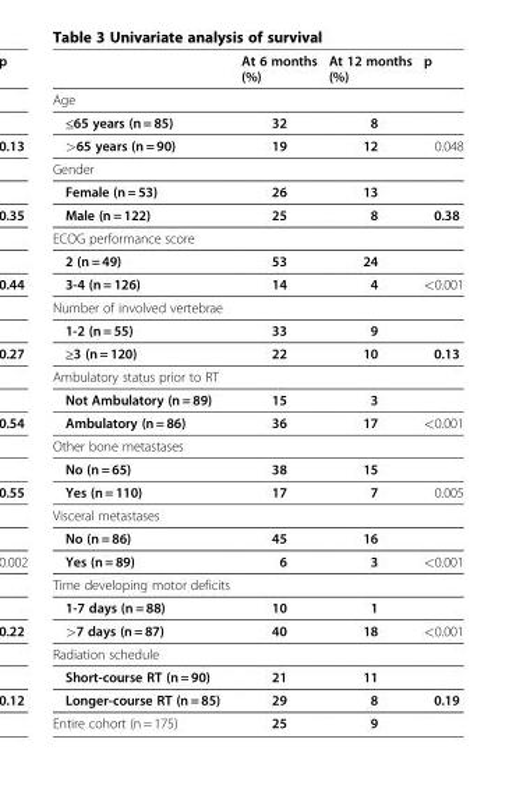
<table><thead><tr><td></td><td>At 6 months (%)</td><td>At 12 months (%)</td><td>p</td></tr></thead><tbody><tr><td colspan="4">Age</td></tr><tr><td>≤65 years (n = 85)</td><td>32</td><td>8</td><td></td></tr><tr><td>&gt;65 years (n = 90)</td><td>19</td><td>12</td><td>0.048</td></tr><tr><td colspan="4">Gender</td></tr><tr><td>Female (n = 53)</td><td>26</td><td>13</td><td></td></tr><tr><td>Male (n = 122)</td><td>25</td><td>8</td><td>0.38</td></tr><tr><td colspan="4">ECOG performance score</td></tr><tr><td>2 (n = 49)</td><td>53</td><td>24</td><td></td></tr><tr><td>3-4 (n = 126)</td><td>14</td><td>4</td><td>&lt;0.001</td></tr><tr><td colspan="4">Number of involved vertebrae</td></tr><tr><td>1-2 (n = 55)</td><td>33</td><td>9</td><td></td></tr><tr><td>≥3 (n = 120)</td><td>22</td><td>10</td><td>0.13</td></tr><tr><td colspan="4">Ambulatory status prior to RT</td></tr><tr><td>Not Ambulatory (n = 89)</td><td>15</td><td>3</td><td></td></tr><tr><td>Ambulatory (n = 86)</td><td>36</td><td>17</td><td>&lt;0.001</td></tr><tr><td colspan="4">Other bone metastases</td></tr><tr><td>No (n = 65)</td><td>38</td><td>15</td><td></td></tr><tr><td>Yes (n = 110)</td><td>17</td><td>7</td><td>0.005</td></tr><tr><td colspan="4">Visceral metastases</td></tr><tr><td>No (n = 86)</td><td>45</td><td>16</td><td></td></tr><tr><td>Yes (n = 89)</td><td>6</td><td>3</td><td>&lt;0.001</td></tr><tr><td colspan="4">Time developing motor deficits</td></tr><tr><td>1-7 days (n = 88)</td><td>10</td><td>1</td><td></td></tr><tr><td>&gt;7 days (n = 87)</td><td>40</td><td>18</td><td>&lt;0.001</td></tr><tr><td colspan="4">Radiation schedule</td></tr><tr><td>Short-course RT (n = 90)</td><td>21</td><td>11</td><td></td></tr><tr><td>Longer-course RT (n = 85)</td><td>29</td><td>8</td><td>0.19</td></tr><tr><td>Entire cohort (n = 175)</td><td>25</td><td>9</td><td></td></tr></tbody></table>